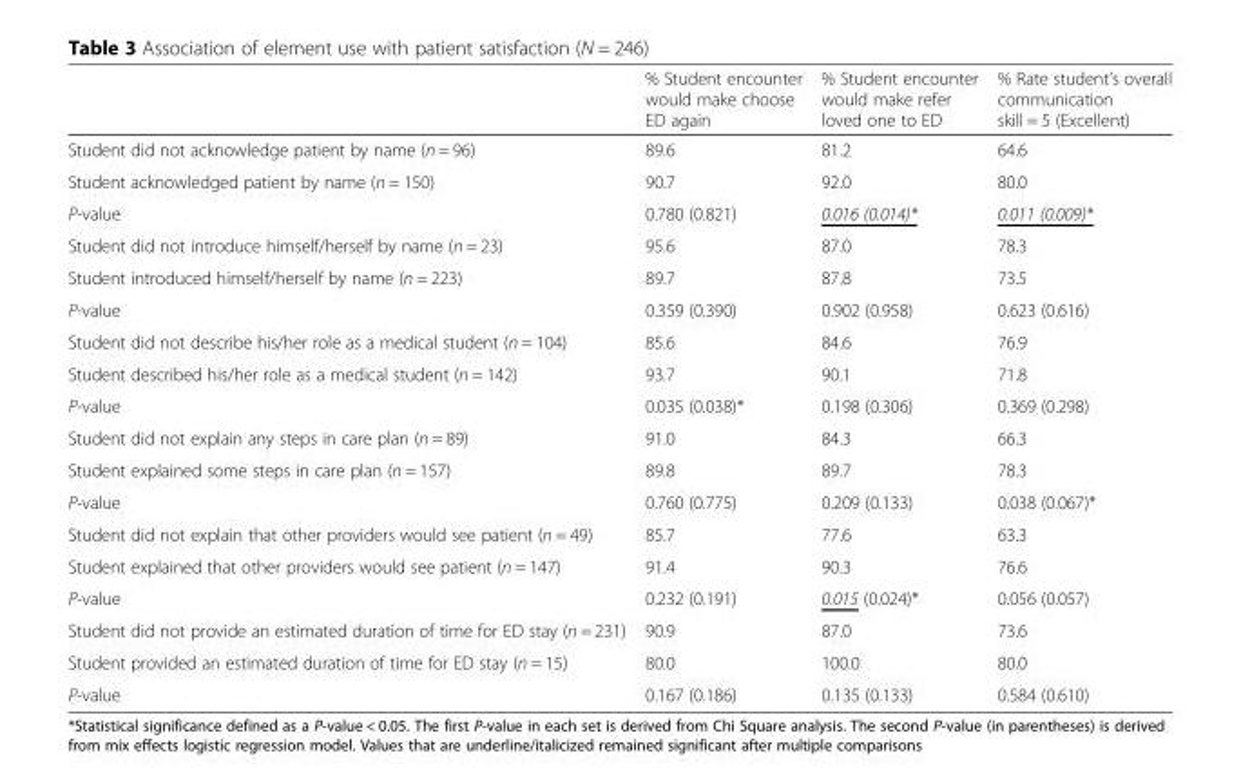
<table><thead><tr><td></td><td>% Student encounter would make choose ED again</td><td>% Student encounter would make refer loved one to ED</td><td>% Rate student’s overall communication skill = 5 (Excellent)</td></tr></thead><tbody><tr><td>Student did not acknowledge patient by name (n = 96)</td><td>89.6</td><td>81.2</td><td>64.6</td></tr><tr><td>Student acknowledged patient by name (n = 150)</td><td>90.7</td><td>92.0</td><td>80.0</td></tr><tr><td>P-value</td><td>0.780 (0.821)</td><td>0.016 (0.014)*</td><td>0.011 (0.009)*</td></tr><tr><td>Student did not introduce himself/herself by name (n = 23)</td><td>95.6</td><td>87.0</td><td>78.3</td></tr><tr><td>Student introduced himself/herself by name (n = 223)</td><td>89.7</td><td>87.8</td><td>73.5</td></tr><tr><td>P-value</td><td>0.359 (0.390)</td><td>0.902 (0.958)</td><td>0.623 (0.616)</td></tr><tr><td>Student did not describe his/her role as a medical student (n = 104)</td><td>85.6</td><td>84.6</td><td>76.9</td></tr><tr><td>Student described his/her role as a medical student (n = 142)</td><td>93.7</td><td>90.1</td><td>71.8</td></tr><tr><td>P-value</td><td>0.035 (0.038)*</td><td>0.198 (0.306)</td><td>0.369 (0.298)</td></tr><tr><td>Student did not explain any steps in care plan (n = 89)</td><td>91.0</td><td>84.3</td><td>66.3</td></tr><tr><td>Student explained some steps in care plan (n = 157)</td><td>89.8</td><td>89.7</td><td>78.3</td></tr><tr><td>P-value</td><td>0.760 (0.775)</td><td>0.209 (0.133)</td><td>0.038 (0.067)*</td></tr><tr><td>Student did not explain that other providers would see patient (n = 49)</td><td>85.7</td><td>77.6</td><td>63.3</td></tr><tr><td>Student explained that other providers would see patient (n = 147)</td><td>91.4</td><td>90.3</td><td>76.6</td></tr><tr><td>P-value</td><td>0.232 (0.191)</td><td>0.015 (0.024)*</td><td>0.056 (0.057)</td></tr><tr><td>Student did not provide an estimated duration of time for ED stay (n = 231)</td><td>90.9</td><td>87.0</td><td>73.6</td></tr><tr><td>Student provided an estimated duration of time for ED stay (n = 15)</td><td>80.0</td><td>100.0</td><td>80.0</td></tr><tr><td>P-value</td><td>0.167 (0.186)</td><td>0.135 (0.133)</td><td>0.584 (0.610)</td></tr></tbody></table>